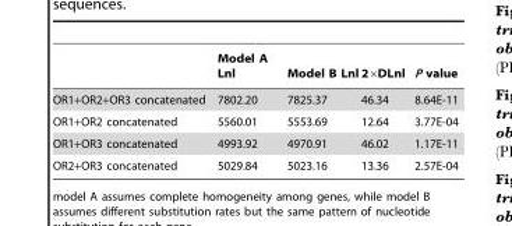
<table><thead><tr><td></td><td>Model A Lnl</td><td>Model B Lnl</td><td>2×DLnl</td><td>P value</td></tr></thead><tbody><tr><td>OR1+OR2+OR3 concatenated</td><td>7802.20</td><td>7825.37</td><td>46.34</td><td>8.64E-11</td></tr><tr><td>OR1+OR2 concatenated</td><td>5560.01</td><td>5553.69</td><td>12.64</td><td>3.77E-04</td></tr><tr><td>OR1+OR3 concatenated</td><td>4993.92</td><td>4970.91</td><td>46.02</td><td>1.17E-11</td></tr><tr><td>OR2+OR3 concatenated</td><td>5029.84</td><td>5023.16</td><td>13.36</td><td>2.57E-04</td></tr></tbody></table>